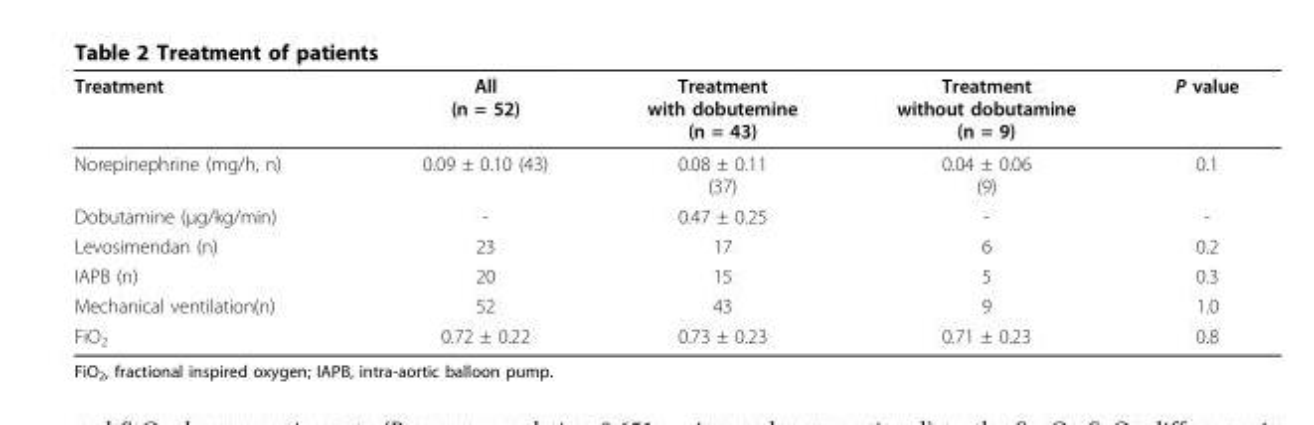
<table><thead><tr><td>Treatment</td><td>All (n = 52)</td><td>Treatment with dobutemine (n = 43)</td><td>Treatment without dobutamine (n = 9)</td><td>P value</td></tr></thead><tbody><tr><td>Norepinephrine (mg/h, n)</td><td>0.09 ± 0.10 (43)</td><td>0.08 ± 0.11 (37)</td><td>0.04 ± 0.06 (9)</td><td>0.1</td></tr><tr><td>Dobutamine (μg/kg/min)</td><td>-</td><td>0.47 ± 0.25</td><td>-</td><td>-</td></tr><tr><td>Levosimendan (n)</td><td>23</td><td>17</td><td>6</td><td>0.2</td></tr><tr><td>IAPB (n)</td><td>20</td><td>15</td><td>5</td><td>0.3</td></tr><tr><td>Mechanical ventilation(n)</td><td>52</td><td>43</td><td>9</td><td>1.0</td></tr><tr><td>FiO<sub>2</sub></td><td>0.72 ± 0.22</td><td>0.73 ± 0.23</td><td>0.71 ± 0.23</td><td>0.8</td></tr></tbody></table>